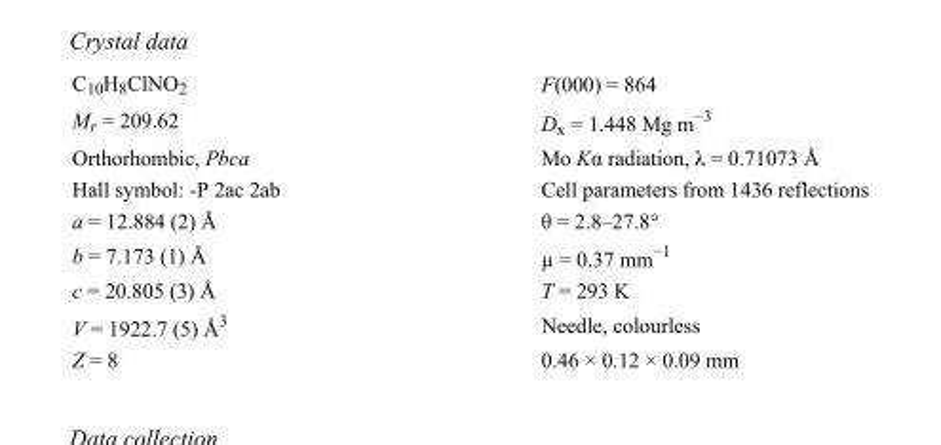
<table><tbody><tr><td>C<sub>10</sub>H<sub>8</sub>ClNO<sub>2</sub></td><td>F(000) = 864</td></tr><tr><td>M<sub>r</sub> = 209.62</td><td>D<sub>x</sub> = 1.448 Mg m<sup>−3</sup></td></tr><tr><td>Orthorhombic, Pbca</td><td>Mo Kα radiation, λ = 0.71073 Å</td></tr><tr><td>Hall symbol: -P 2ac 2ab</td><td>Cell parameters from 1436 reflections</td></tr><tr><td>a = 12.884 (2) Å</td><td>θ = 2.8–27.8°</td></tr><tr><td>b = 7.173 (1) Å</td><td>µ = 0.37 mm<sup>−1</sup></td></tr><tr><td>c = 20.805 (3) Å</td><td>T = 293 K</td></tr><tr><td>V = 1922.7 (5) Å<sup>3</sup></td><td>Needle, colourless</td></tr><tr><td>Z = 8</td><td>0.46 × 0.12 × 0.09 mm</td></tr></tbody></table>